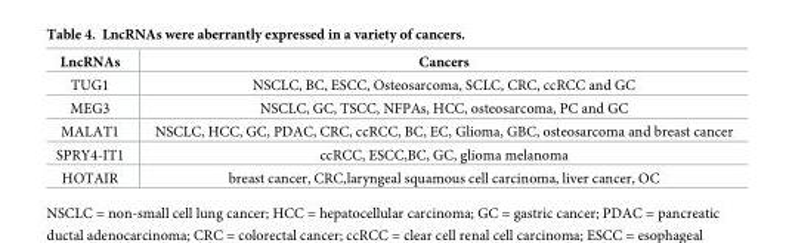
<table><thead><tr><td>LncRNAs</td><td>Cancers</td></tr></thead><tbody><tr><td>TUG1</td><td>NSCLC, BC, ESCC, Osteosarcoma, SCLC, CRC, ccRCC and GC</td></tr><tr><td>MEG3</td><td>NSCLC, GC, TSCC, NFPAs, HCC, osteosarcoma, PC and GC</td></tr><tr><td>MALAT1</td><td>NSCLC, HCC, GC, PDAC, CRC, ccRCC, BC, EC, Glioma, GBC, osteosarcoma and breast cancer</td></tr><tr><td>SPRY4-IT1</td><td>ccRCC, ESCC,BC, GC, glioma melanoma</td></tr><tr><td>HOTAIR</td><td>breast cancer, CRC,laryngeal squamous cell carcinoma, liver cancer, OC</td></tr></tbody></table>